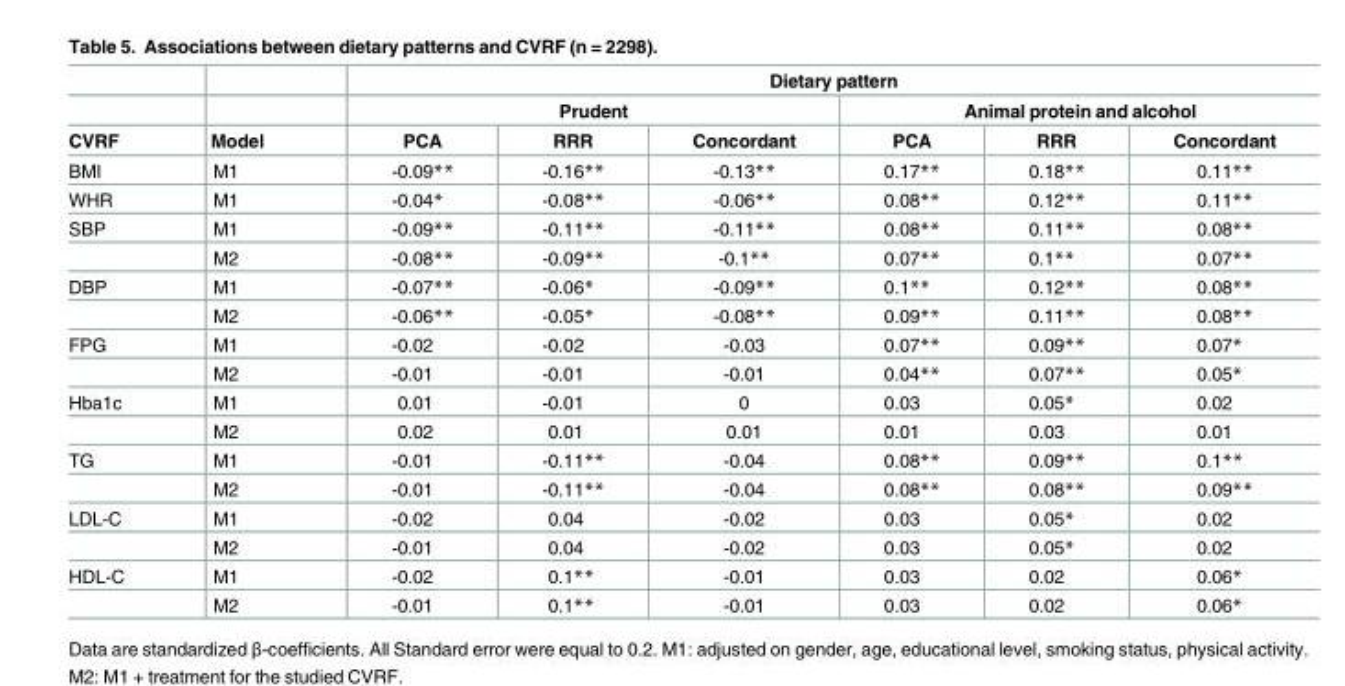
<table><thead><tr><td rowspan="3">CVRF</td><td rowspan="3">Model</td><td colspan="6">Dietary pattern</td></tr><tr><td colspan="3">Prudent</td><td colspan="3">Animal protein and alcohol</td></tr><tr><td>PCA</td><td>RRR</td><td>Concordant</td><td>PCA</td><td>RRR</td><td>Concordant</td></tr></thead><tbody><tr><td>BMI</td><td>M1</td><td>-0.09**</td><td>-0.16**</td><td>-0.13**</td><td>0.17**</td><td>0.18**</td><td>0.11**</td></tr><tr><td>WHR</td><td>M1</td><td>-0.04*</td><td>-0.08**</td><td>-0.06**</td><td>0.08**</td><td>0.12**</td><td>0.11**</td></tr><tr><td rowspan="2">SBP</td><td>M1</td><td>-0.09**</td><td>-0.11**</td><td>-0.11**</td><td>0.08**</td><td>0.11**</td><td>0.08**</td></tr><tr><td>M2</td><td>-0.08**</td><td>-0.09**</td><td>-0.1**</td><td>0.07**</td><td>0.1**</td><td>0.07**</td></tr><tr><td rowspan="2">DBP</td><td>M1</td><td>-0.07**</td><td>-0.06*</td><td>-0.09**</td><td>0.1**</td><td>0.12**</td><td>0.08**</td></tr><tr><td>M2</td><td>-0.06**</td><td>-0.05*</td><td>-0.08**</td><td>0.09**</td><td>0.11**</td><td>0.08**</td></tr><tr><td rowspan="2">FPG</td><td>M1</td><td>-0.02</td><td>-0.02</td><td>-0.03</td><td>0.07**</td><td>0.09**</td><td>0.07*</td></tr><tr><td>M2</td><td>-0.01</td><td>-0.01</td><td>-0.01</td><td>0.04**</td><td>0.07**</td><td>0.05*</td></tr><tr><td rowspan="2">Hba1c</td><td>M1</td><td>0.01</td><td>-0.01</td><td>0</td><td>0.03</td><td>0.05*</td><td>0.02</td></tr><tr><td>M2</td><td>0.02</td><td>0.01</td><td>0.01</td><td>0.01</td><td>0.03</td><td>0.01</td></tr><tr><td rowspan="2">TG</td><td>M1</td><td>-0.01</td><td>-0.11**</td><td>-0.04</td><td>0.08**</td><td>0.09**</td><td>0.1**</td></tr><tr><td>M2</td><td>-0.01</td><td>-0.11**</td><td>-0.04</td><td>0.08**</td><td>0.08**</td><td>0.09**</td></tr><tr><td rowspan="2">LDL-C</td><td>M1</td><td>-0.02</td><td>0.04</td><td>-0.02</td><td>0.03</td><td>0.05*</td><td>0.02</td></tr><tr><td>M2</td><td>-0.01</td><td>0.04</td><td>-0.02</td><td>0.03</td><td>0.05*</td><td>0.02</td></tr><tr><td rowspan="2">HDL-C</td><td>M1</td><td>-0.02</td><td>0.1**</td><td>-0.01</td><td>0.03</td><td>0.02</td><td>0.06*</td></tr><tr><td>M2</td><td>-0.01</td><td>0.1**</td><td>-0.01</td><td>0.03</td><td>0.02</td><td>0.06*</td></tr></tbody></table>